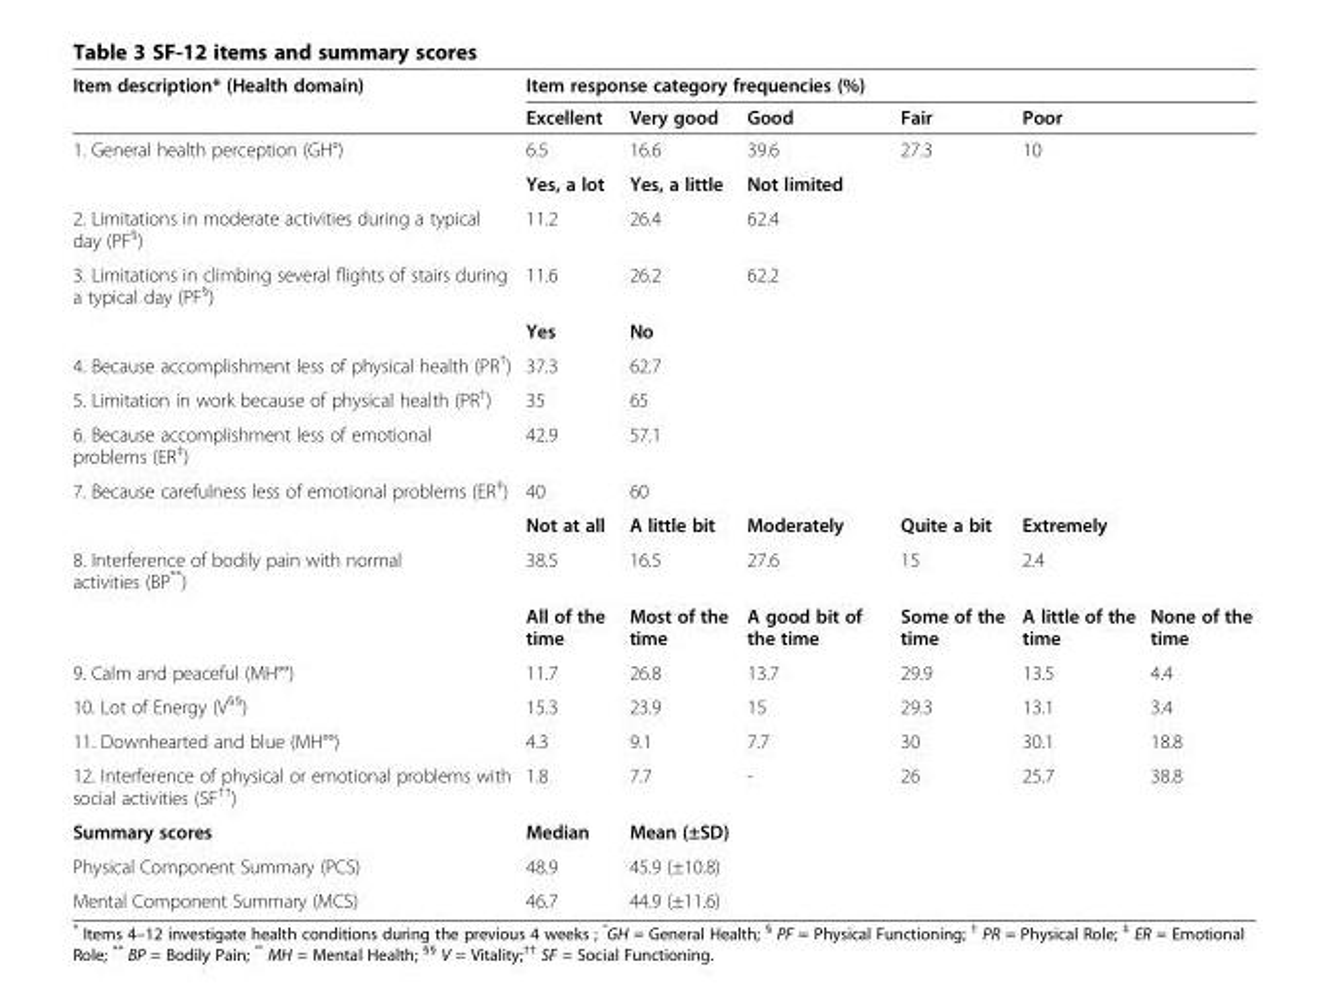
<table><thead><tr><td rowspan="2">Item description* (Health domain)</td><td colspan="6">Item response category frequencies (%)</td></tr><tr><td>Excellent</td><td>Very good</td><td>Good</td><td>Fair</td><td>Poor</td><td></td></tr></thead><tbody><tr><td rowspan="2">1. General health perception (GH°)</td><td>6.5</td><td>16.6</td><td>39.6</td><td>27.3</td><td>10</td><td></td></tr><tr><td>Yes, a lot</td><td>Yes, a little</td><td>Not limited</td><td></td><td></td><td></td></tr><tr><td>2. Limitations in moderate activities during a typical day (PF<sup>§</sup>)</td><td>11.2</td><td>26.4</td><td>62.4</td><td></td><td></td><td></td></tr><tr><td rowspan="2">3. Limitations in climbing several flights of stairs during a typical day (PF<sup>§</sup>)</td><td>11.6</td><td>26.2</td><td>62.2</td><td></td><td></td><td></td></tr><tr><td>Yes</td><td>No</td><td></td><td></td><td></td><td></td></tr><tr><td>4. Because accomplishment less of physical health (PR<sup>†</sup>)</td><td>37.3</td><td>62.7</td><td></td><td></td><td></td><td></td></tr><tr><td>5. Limitation in work because of physical health (PR<sup>†</sup>)</td><td>35</td><td>65</td><td></td><td></td><td></td><td></td></tr><tr><td>6. Because accomplishment less of emotional problems (ER<sup>‡</sup>)</td><td>42.9</td><td>57.1</td><td></td><td></td><td></td><td></td></tr><tr><td rowspan="2">7. Because carefulness less of emotional problems (ER<sup>‡</sup>)</td><td>40</td><td>60</td><td></td><td></td><td></td><td></td></tr><tr><td>Not at all</td><td>A little bit</td><td>Moderately</td><td>Quite a bit</td><td>Extremely</td><td></td></tr><tr><td rowspan="2">8. Interference of bodily pain with normal activities (BP**)</td><td>38.5</td><td>16.5</td><td>27.6</td><td>15</td><td>2.4</td><td></td></tr><tr><td>All of the time</td><td>Most of the time</td><td>A good bit of the time</td><td>Some of the time</td><td>A little of the time</td><td>None of the time</td></tr><tr><td>9. Calm and peaceful (MH°°)</td><td>11.7</td><td>26.8</td><td>13.7</td><td>29.9</td><td>13.5</td><td>4.4</td></tr><tr><td>10. Lot of Energy (V<sup>§§</sup>)</td><td>15.3</td><td>23.9</td><td>15</td><td>29.3</td><td>13.1</td><td>3.4</td></tr><tr><td>11. Downhearted and blue (MH°°)</td><td>4.3</td><td>9.1</td><td>7.7</td><td>30</td><td>30.1</td><td>18.8</td></tr><tr><td>12. Interference of physical or emotional problems with social activities (SF<sup>††</sup>)</td><td>1.8</td><td>7.7</td><td>-</td><td>26</td><td>25.7</td><td>38.8</td></tr><tr><td>Summary scores</td><td>Median</td><td>Mean (±SD)</td><td></td><td></td><td></td><td></td></tr><tr><td>Physical Component Summary (PCS)</td><td>48.9</td><td>45.9 (±10.8)</td><td></td><td></td><td></td><td></td></tr><tr><td>Mental Component Summary (MCS)</td><td>46.7</td><td>44.9 (±11.6)</td><td></td><td></td><td></td><td></td></tr></tbody></table>